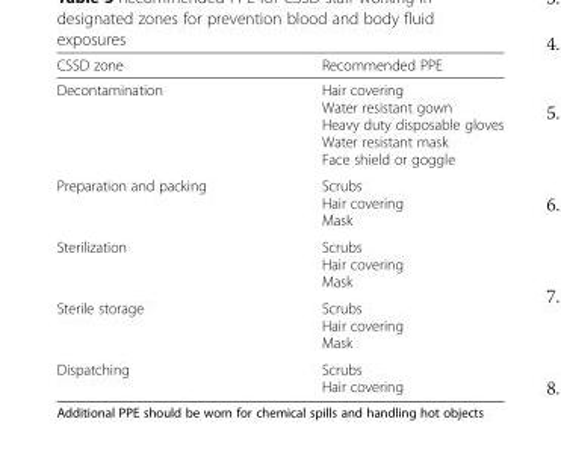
<table><thead><tr><td>CSSD zone</td><td>Recommended PPE</td></tr></thead><tbody><tr><td>Decontamination</td><td>Hair covering Water resistant gown Heavy duty disposable gloves Water resistant mask Face shield or goggle</td></tr><tr><td>Preparation and packing</td><td>Scrubs Hair covering Mask</td></tr><tr><td>Sterilization</td><td>Scrubs Hair covering Mask</td></tr><tr><td>Sterile storage</td><td>Scrubs Hair covering Mask</td></tr><tr><td>Dispatching</td><td>Scrubs Hair covering</td></tr></tbody></table>